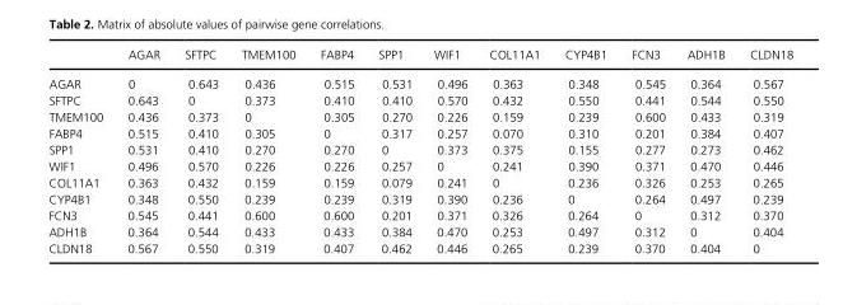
<table><thead><tr><td></td><td>AGAR</td><td>SFTPC</td><td>TMEM100</td><td>FABP4</td><td>SPP1</td><td>WIF1</td><td>COL11A1</td><td>CYP4B1</td><td>FCN3</td><td>ADH1B</td><td>CLDN18</td></tr></thead><tbody><tr><td>AGAR</td><td>0</td><td>0.643</td><td>0.436</td><td>0.515</td><td>0.531</td><td>0.496</td><td>0.363</td><td>0.348</td><td>0.545</td><td>0.364</td><td>0.567</td></tr><tr><td>SFTPC</td><td>0.643</td><td>0</td><td>0.373</td><td>0.410</td><td>0.410</td><td>0.570</td><td>0.432</td><td>0.550</td><td>0.441</td><td>0.544</td><td>0.550</td></tr><tr><td>TMEM100</td><td>0.436</td><td>0.373</td><td>0</td><td>0.305</td><td>0.270</td><td>0.226</td><td>0.159</td><td>0.239</td><td>0.600</td><td>0.433</td><td>0.319</td></tr><tr><td>FABP4</td><td>0.515</td><td>0.410</td><td>0.305</td><td>0</td><td>0.317</td><td>0.257</td><td>0.070</td><td>0.310</td><td>0.201</td><td>0.384</td><td>0.407</td></tr><tr><td>SPP1</td><td>0.531</td><td>0.410</td><td>0.270</td><td>0.270</td><td>0</td><td>0.373</td><td>0.375</td><td>0.155</td><td>0.277</td><td>0.273</td><td>0.462</td></tr><tr><td>WIF1</td><td>0.496</td><td>0.570</td><td>0.226</td><td>0.226</td><td>0.257</td><td>0</td><td>0.241</td><td>0.390</td><td>0.371</td><td>0.470</td><td>0.446</td></tr><tr><td>COL11A1</td><td>0.363</td><td>0.432</td><td>0.159</td><td>0.159</td><td>0.079</td><td>0.241</td><td>0</td><td>0.236</td><td>0.326</td><td>0.253</td><td>0.265</td></tr><tr><td>CYP4B1</td><td>0.348</td><td>0.550</td><td>0.239</td><td>0.239</td><td>0.319</td><td>0.390</td><td>0.236</td><td>0</td><td>0.264</td><td>0.497</td><td>0.239</td></tr><tr><td>FCN3</td><td>0.545</td><td>0.441</td><td>0.600</td><td>0.600</td><td>0.201</td><td>0.371</td><td>0.326</td><td>0.264</td><td>0</td><td>0.312</td><td>0.370</td></tr><tr><td>ADH1B</td><td>0.364</td><td>0.544</td><td>0.433</td><td>0.433</td><td>0.384</td><td>0.470</td><td>0.253</td><td>0.497</td><td>0.312</td><td>0</td><td>0.404</td></tr><tr><td>CLDN18</td><td>0.567</td><td>0.550</td><td>0.319</td><td>0.407</td><td>0.462</td><td>0.446</td><td>0.265</td><td>0.239</td><td>0.370</td><td>0.404</td><td>0</td></tr></tbody></table>